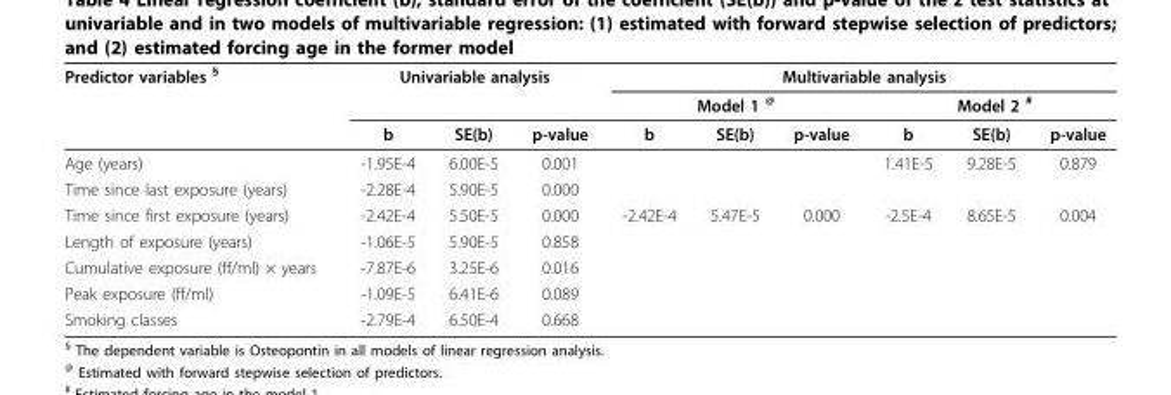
<table><thead><tr><td rowspan="3">Predictor variables <sup>§</sup></td><td colspan="3">Univariable analysis</td><td colspan="6">Multivariable analysis</td></tr><tr><td rowspan="2">b</td><td rowspan="2">SE(b)</td><td rowspan="2">p-value</td><td colspan="3">Model 1 <sup>@</sup></td><td colspan="3">Model 2 <sup>#</sup></td></tr><tr><td>b</td><td>SE(b)</td><td>p-value</td><td>b</td><td>SE(b)</td><td>p-value</td></tr></thead><tbody><tr><td>Age (years)</td><td>-1.95E-4</td><td>6.00E-5</td><td>0.001</td><td></td><td></td><td></td><td>1.41E-5</td><td>9.28E-5</td><td>0.879</td></tr><tr><td>Time since last exposure (years)</td><td>-2.28E-4</td><td>5.90E-5</td><td>0.000</td><td></td><td></td><td></td><td></td><td></td><td></td></tr><tr><td>Time since first exposure (years)</td><td>-2.42E-4</td><td>5.50E-5</td><td>0.000</td><td>-2.42E-4</td><td>5.47E-5</td><td>0.000</td><td>-2.5E-4</td><td>8.65E-5</td><td>0.004</td></tr><tr><td>Length of exposure (years)</td><td>-1.06E-5</td><td>5.90E-5</td><td>0.858</td><td></td><td></td><td></td><td></td><td></td><td></td></tr><tr><td>Cumulative exposure (ff/ml) × years</td><td>-7.87E-6</td><td>3.25E-6</td><td>0.016</td><td></td><td></td><td></td><td></td><td></td><td></td></tr><tr><td>Peak exposure (ff/ml)</td><td>-1.09E-5</td><td>6.41E-6</td><td>0.089</td><td></td><td></td><td></td><td></td><td></td><td></td></tr><tr><td>Smoking classes</td><td>-2.79E-4</td><td>6.50E-4</td><td>0.668</td><td></td><td></td><td></td><td></td><td></td><td></td></tr></tbody></table>